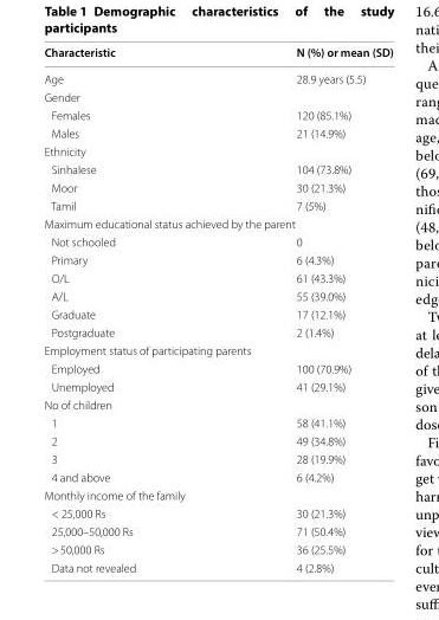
<table><thead><tr><td>Characteristic</td><td>N (%) or mean (SD)</td></tr></thead><tbody><tr><td>Age</td><td>28.9 years (5.5)</td></tr><tr><td colspan="2">Gender</td></tr><tr><td>Females</td><td>120 (85.1%)</td></tr><tr><td>Males</td><td>21 (14.9%)</td></tr><tr><td colspan="2">Ethnicity</td></tr><tr><td>Sinhalese</td><td>104 (73.8%)</td></tr><tr><td>Moor</td><td>30 (21.3%)</td></tr><tr><td>Tamil</td><td>7 (5%)</td></tr><tr><td colspan="2">Maximum educational status achieved by the parent</td></tr><tr><td>Not schooled</td><td>0</td></tr><tr><td>Primary</td><td>6 (4.3%)</td></tr><tr><td>O/L</td><td>61 (43.3%)</td></tr><tr><td>A/L</td><td>55 (39.0%)</td></tr><tr><td>Graduate</td><td>17 (12.1%)</td></tr><tr><td>Postgraduate</td><td>2 (1.4%)</td></tr><tr><td colspan="2">Employment status of participating parents</td></tr><tr><td>Employed</td><td>100 (70.9%)</td></tr><tr><td>Unemployed</td><td>41 (29.1%)</td></tr><tr><td colspan="2">No of children</td></tr><tr><td>1</td><td>58 (41.1%)</td></tr><tr><td>2</td><td>49 (34.8%)</td></tr><tr><td>3</td><td>28 (19.9%)</td></tr><tr><td>4 and above</td><td>6 (4.2%)</td></tr><tr><td colspan="2">Monthly income of the family</td></tr><tr><td>&lt; 25,000 Rs</td><td>30 (21.3%)</td></tr><tr><td>25,000–50,000 Rs</td><td>71 (50.4%)</td></tr><tr><td>&gt; 50,000 Rs</td><td>36 (25.5%)</td></tr><tr><td>Data not revealed</td><td>4 (2.8%)</td></tr></tbody></table>